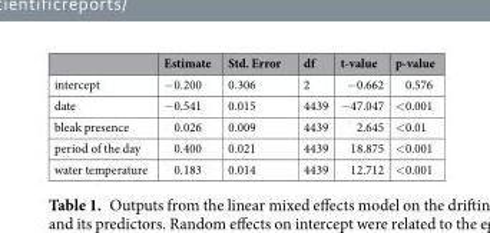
<table><thead><tr><td></td><td>Estimate</td><td>Std. Error</td><td>df</td><td>t-value</td><td>p-value</td></tr></thead><tbody><tr><td>intercept</td><td>−0.200</td><td>0.306</td><td>2</td><td>−0.662</td><td>0.576</td></tr><tr><td>date</td><td>−0.541</td><td>0.015</td><td>4439</td><td>−47.047</td><td>&lt;0.001</td></tr><tr><td>bleak presence</td><td>0.026</td><td>0.009</td><td>4439</td><td>2.645</td><td>&lt;0.01</td></tr><tr><td>period of the day</td><td>0.400</td><td>0.021</td><td>4439</td><td>18.875</td><td>&lt;0.001</td></tr><tr><td>water temperature</td><td>0.183</td><td>0.014</td><td>4439</td><td>12.712</td><td>&lt;0.001</td></tr></tbody></table>